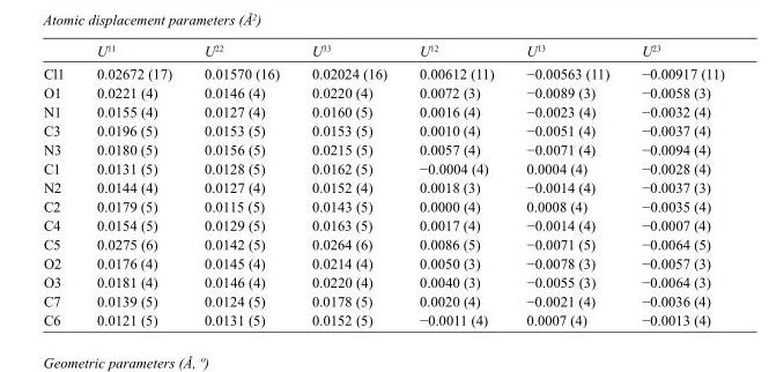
<table><thead><tr><td></td><td>U<sup>11</sup></td><td>U<sup>22</sup></td><td>U<sup>33</sup></td><td>U<sup>12</sup></td><td>U<sup>13</sup></td><td>U<sup>23</sup></td></tr></thead><tbody><tr><td>Cl1</td><td>0.02672 (17)</td><td>0.01570 (16)</td><td>0.02024 (16)</td><td>0.00612 (11)</td><td>−0.00563 (11)</td><td>−0.00917 (11)</td></tr><tr><td>O1</td><td>0.0221 (4)</td><td>0.0146 (4)</td><td>0.0220 (4)</td><td>0.0072 (3)</td><td>−0.0089 (3)</td><td>−0.0058 (3)</td></tr><tr><td>N1</td><td>0.0155 (4)</td><td>0.0127 (4)</td><td>0.0160 (5)</td><td>0.0016 (4)</td><td>−0.0023 (4)</td><td>−0.0032 (4)</td></tr><tr><td>C3</td><td>0.0196 (5)</td><td>0.0153 (5)</td><td>0.0153 (5)</td><td>0.0010 (4)</td><td>−0.0051 (4)</td><td>−0.0037 (4)</td></tr><tr><td>N3</td><td>0.0180 (5)</td><td>0.0156 (5)</td><td>0.0215 (5)</td><td>0.0057 (4)</td><td>−0.0071 (4)</td><td>−0.0094 (4)</td></tr><tr><td>C1</td><td>0.0131 (5)</td><td>0.0128 (5)</td><td>0.0162 (5)</td><td>−0.0004 (4)</td><td>0.0004 (4)</td><td>−0.0028 (4)</td></tr><tr><td>N2</td><td>0.0144 (4)</td><td>0.0127 (4)</td><td>0.0152 (4)</td><td>0.0018 (3)</td><td>−0.0014 (4)</td><td>−0.0037 (3)</td></tr><tr><td>C2</td><td>0.0179 (5)</td><td>0.0115 (5)</td><td>0.0143 (5)</td><td>0.0000 (4)</td><td>0.0008 (4)</td><td>−0.0035 (4)</td></tr><tr><td>C4</td><td>0.0154 (5)</td><td>0.0129 (5)</td><td>0.0163 (5)</td><td>0.0017 (4)</td><td>−0.0014 (4)</td><td>−0.0007 (4)</td></tr><tr><td>C5</td><td>0.0275 (6)</td><td>0.0142 (5)</td><td>0.0264 (6)</td><td>0.0086 (5)</td><td>−0.0071 (5)</td><td>−0.0064 (5)</td></tr><tr><td>O2</td><td>0.0176 (4)</td><td>0.0145 (4)</td><td>0.0214 (4)</td><td>0.0050 (3)</td><td>−0.0078 (3)</td><td>−0.0057 (3)</td></tr><tr><td>O3</td><td>0.0181 (4)</td><td>0.0146 (4)</td><td>0.0220 (4)</td><td>0.0040 (3)</td><td>−0.0055 (3)</td><td>−0.0064 (3)</td></tr><tr><td>C7</td><td>0.0139 (5)</td><td>0.0124 (5)</td><td>0.0178 (5)</td><td>0.0020 (4)</td><td>−0.0021 (4)</td><td>−0.0036 (4)</td></tr><tr><td>C6</td><td>0.0121 (5)</td><td>0.0131 (5)</td><td>0.0152 (5)</td><td>−0.0011 (4)</td><td>0.0007 (4)</td><td>−0.0013 (4)</td></tr></tbody></table>